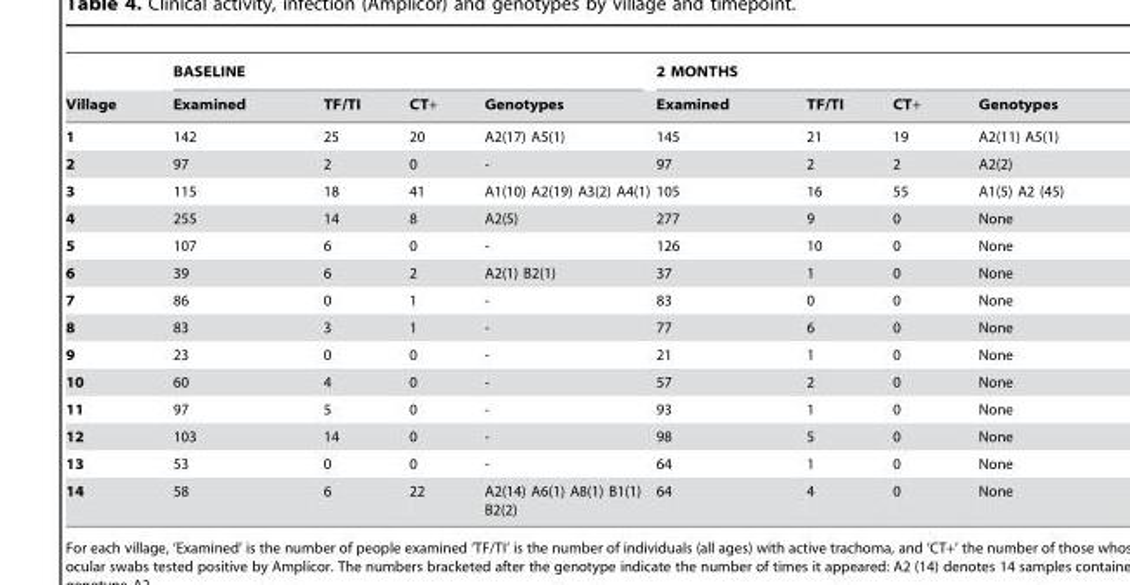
<table><thead><tr><td rowspan="2">Village</td><td colspan="4">BASELINE</td><td colspan="4">2 MONTHS</td></tr><tr><td>Examined</td><td>TF/TI</td><td>CT+</td><td>Genotypes</td><td>Examined</td><td>TF/TI</td><td>CT+</td><td>Genotypes</td></tr></thead><tbody><tr><td>1</td><td>142</td><td>25</td><td>20</td><td>A2(17) A5(1)</td><td>145</td><td>21</td><td>19</td><td>A2(11) A5(1)</td></tr><tr><td>2</td><td>97</td><td>2</td><td>0</td><td>-</td><td>97</td><td>2</td><td>2</td><td>A2(2)</td></tr><tr><td>3</td><td>115</td><td>18</td><td>41</td><td>A1(10) A2(19) A3(2) A4(1)</td><td>105</td><td>16</td><td>55</td><td>A1(5) A2 (45)</td></tr><tr><td>4</td><td>255</td><td>14</td><td>8</td><td>A2(5)</td><td>277</td><td>9</td><td>0</td><td>None</td></tr><tr><td>5</td><td>107</td><td>6</td><td>0</td><td>-</td><td>126</td><td>10</td><td>0</td><td>None</td></tr><tr><td>6</td><td>39</td><td>6</td><td>2</td><td>A2(1) B2(1)</td><td>37</td><td>1</td><td>0</td><td>None</td></tr><tr><td>7</td><td>86</td><td>0</td><td>1</td><td>-</td><td>83</td><td>0</td><td>0</td><td>None</td></tr><tr><td>8</td><td>83</td><td>3</td><td>1</td><td>-</td><td>77</td><td>6</td><td>0</td><td>None</td></tr><tr><td>9</td><td>23</td><td>0</td><td>0</td><td>-</td><td>21</td><td>1</td><td>0</td><td>None</td></tr><tr><td>10</td><td>60</td><td>4</td><td>0</td><td>-</td><td>57</td><td>2</td><td>0</td><td>None</td></tr><tr><td>11</td><td>97</td><td>5</td><td>0</td><td>-</td><td>93</td><td>1</td><td>0</td><td>None</td></tr><tr><td>12</td><td>103</td><td>14</td><td>0</td><td>-</td><td>98</td><td>5</td><td>0</td><td>None</td></tr><tr><td>13</td><td>53</td><td>0</td><td>0</td><td>-</td><td>64</td><td>1</td><td>0</td><td>None</td></tr><tr><td>14</td><td>58</td><td>6</td><td>22</td><td>A2(14) A6(1) A8(1) B1(1) B2(2)</td><td>64</td><td>4</td><td>0</td><td>None</td></tr></tbody></table>